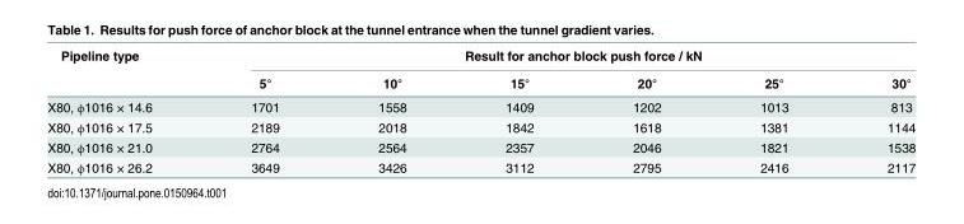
<table><thead><tr><td rowspan="2">Pipeline type</td><td colspan="6">Result for anchor block push force / kN</td></tr><tr><td>5°</td><td>10°</td><td>15°</td><td>20°</td><td>25°</td><td>30°</td></tr></thead><tbody><tr><td>X80, ϕ1016 × 14.6</td><td>1701</td><td>1558</td><td>1409</td><td>1202</td><td>1013</td><td>813</td></tr><tr><td>X80, ϕ1016 × 17.5</td><td>2189</td><td>2018</td><td>1842</td><td>1618</td><td>1381</td><td>1144</td></tr><tr><td>X80, ϕ1016 × 21.0</td><td>2764</td><td>2564</td><td>2357</td><td>2046</td><td>1821</td><td>1538</td></tr><tr><td>X80, ϕ1016 × 26.2</td><td>3649</td><td>3426</td><td>3112</td><td>2795</td><td>2416</td><td>2117</td></tr></tbody></table>